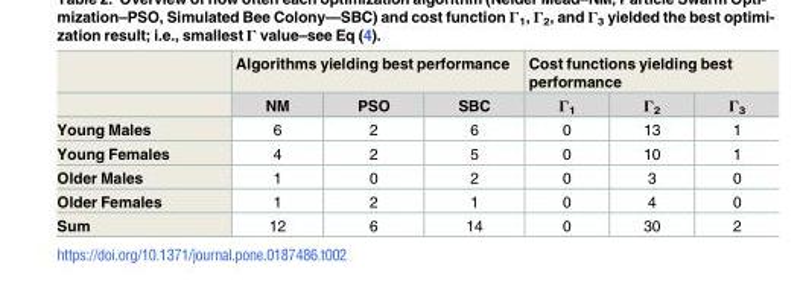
<table><thead><tr><td rowspan="2"></td><td colspan="3">Algorithms yielding best performance</td><td colspan="3">Cost functions yielding best performance</td></tr><tr><td>NM</td><td>PSO</td><td>SBC</td><td>Γ<sub>1</sub></td><td>Γ<sub>2</sub></td><td>Γ<sub>3</sub></td></tr></thead><tbody><tr><td>Young Males</td><td>6</td><td>2</td><td>6</td><td>0</td><td>13</td><td>1</td></tr><tr><td>Young Females</td><td>4</td><td>2</td><td>5</td><td>0</td><td>10</td><td>1</td></tr><tr><td>Older Males</td><td>1</td><td>0</td><td>2</td><td>0</td><td>3</td><td>0</td></tr><tr><td>Older Females</td><td>1</td><td>2</td><td>1</td><td>0</td><td>4</td><td>0</td></tr><tr><td>Sum</td><td>12</td><td>6</td><td>14</td><td>0</td><td>30</td><td>2</td></tr></tbody></table>